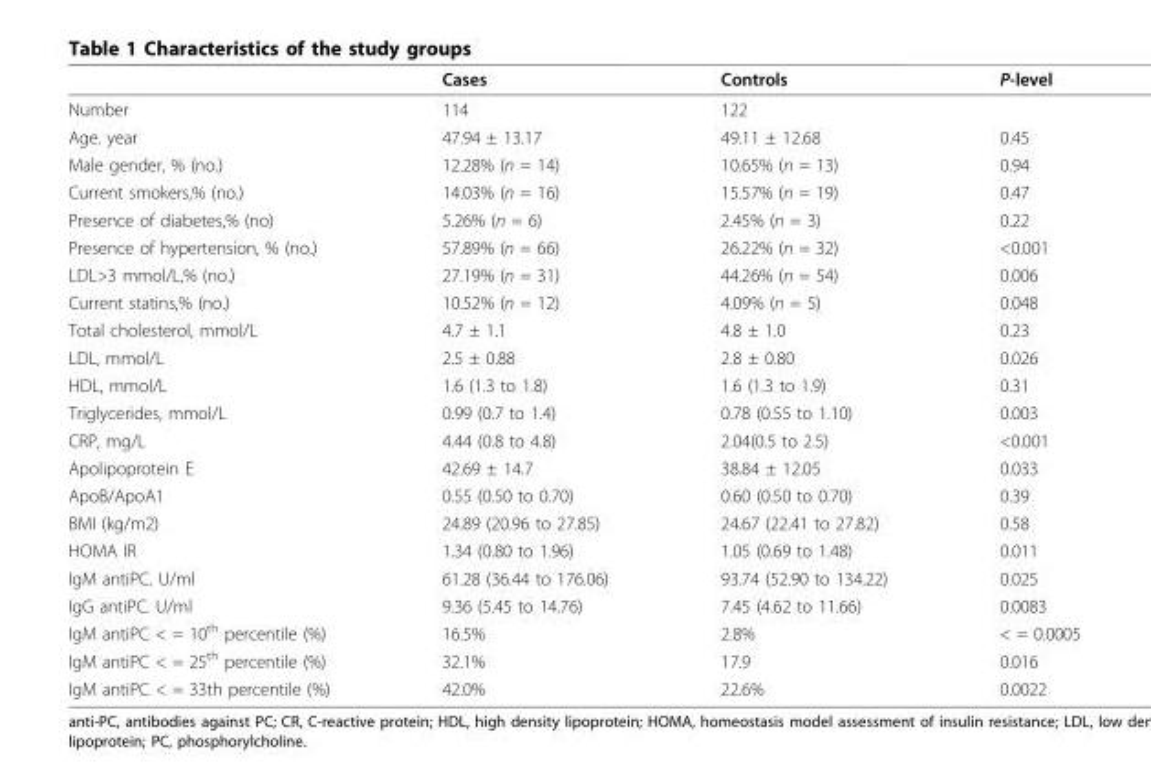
<table><thead><tr><td></td><td>Cases</td><td>Controls</td><td>P-level</td></tr></thead><tbody><tr><td>Number</td><td>114</td><td>122</td><td></td></tr><tr><td>Age. year</td><td>47.94 ± 13.17</td><td>49.11 ± 12.68</td><td>0.45</td></tr><tr><td>Male gender, % (no.)</td><td>12.28% (n = 14)</td><td>10.65% (n = 13)</td><td>0.94</td></tr><tr><td>Current smokers,% (no.)</td><td>14.03% (n = 16)</td><td>15.57% (n = 19)</td><td>0.47</td></tr><tr><td>Presence of diabetes,% (no)</td><td>5.26% (n = 6)</td><td>2.45% (n = 3)</td><td>0.22</td></tr><tr><td>Presence of hypertension, % (no.)</td><td>57.89% (n = 66)</td><td>26.22% (n = 32)</td><td>&lt;0.001</td></tr><tr><td>LDL&gt;3 mmol/L,% (no.)</td><td>27.19% (n = 31)</td><td>44.26% (n = 54)</td><td>0.006</td></tr><tr><td>Current statins,% (no.)</td><td>10.52% (n = 12)</td><td>4.09% (n = 5)</td><td>0.048</td></tr><tr><td>Total cholesterol, mmol/L</td><td>4.7 ± 1.1</td><td>4.8 ± 1.0</td><td>0.23</td></tr><tr><td>LDL, mmol/L</td><td>2.5 ± 0.88</td><td>2.8 ± 0.80</td><td>0.026</td></tr><tr><td>HDL, mmol/L</td><td>1.6 (1.3 to 1.8)</td><td>1.6 (1.3 to 1.9)</td><td>0.31</td></tr><tr><td>Triglycerides, mmol/L</td><td>0.99 (0.7 to 1.4)</td><td>0.78 (0.55 to 1.10)</td><td>0.003</td></tr><tr><td>CRP, mg/L</td><td>4.44 (0.8 to 4.8)</td><td>2.04(0.5 to 2.5)</td><td>&lt;0.001</td></tr><tr><td>Apolipoprotein E</td><td>42.69 ± 14.7</td><td>38.84 ± 12.05</td><td>0.033</td></tr><tr><td>ApoB/ApoA1</td><td>0.55 (0.50 to 0.70)</td><td>0.60 (0.50 to 0.70)</td><td>0.39</td></tr><tr><td>BMI (kg/m2)</td><td>24.89 (20.96 to 27.85)</td><td>24.67 (22.41 to 27.82)</td><td>0.58</td></tr><tr><td>HOMA IR</td><td>1.34 (0.80 to 1.96)</td><td>1.05 (0.69 to 1.48)</td><td>0.011</td></tr><tr><td>IgM antiPC. U/ml</td><td>61.28 (36.44 to 176.06)</td><td>93.74 (52.90 to 134.22)</td><td>0.025</td></tr><tr><td>IgG antiPC. U/ml</td><td>9.36 (5.45 to 14.76)</td><td>7.45 (4.62 to 11.66)</td><td>0.0083</td></tr><tr><td>IgM antiPC &lt; = 10<sup>th</sup> percentile (%)</td><td>16.5%</td><td>2.8%</td><td>&lt; = 0.0005</td></tr><tr><td>IgM antiPC &lt; = 25<sup>th</sup> percentile (%)</td><td>32.1%</td><td>17.9</td><td>0.016</td></tr><tr><td>IgM antiPC &lt; = 33th percentile (%)</td><td>42.0%</td><td>22.6%</td><td>0.0022</td></tr></tbody></table>